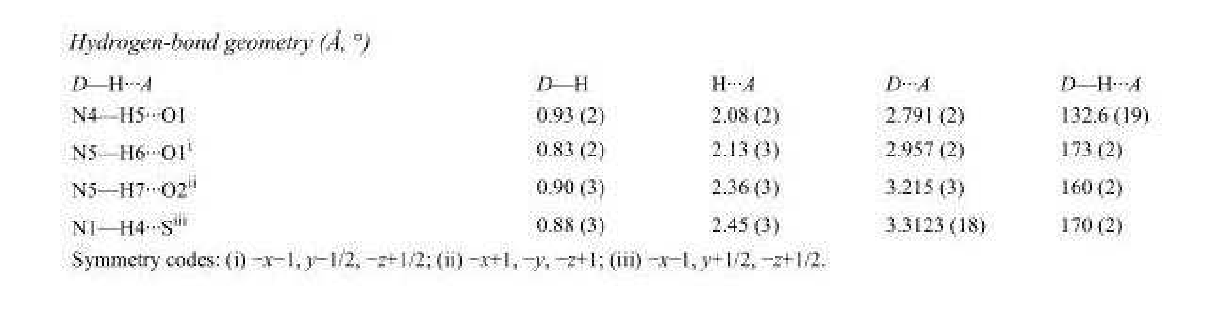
<table><tbody><tr><td>D—H···A</td><td>D—H</td><td>H···A</td><td>D···A</td><td>D—H···A</td></tr><tr><td>N4—H5···O1</td><td>0.93 (2)</td><td>2.08 (2)</td><td>2.791 (2)</td><td>132.6 (19)</td></tr><tr><td>N5—H6···O1<sup>i</sup></td><td>0.83 (2)</td><td>2.13 (3)</td><td>2.957 (2)</td><td>173 (2)</td></tr><tr><td>N5—H7···O2<sup>ii</sup></td><td>0.90 (3)</td><td>2.36 (3)</td><td>3.215 (3)</td><td>160 (2)</td></tr><tr><td>N1—H4···S<sup>iii</sup></td><td>0.88 (3)</td><td>2.45 (3)</td><td>3.3123 (18)</td><td>170 (2)</td></tr></tbody></table>